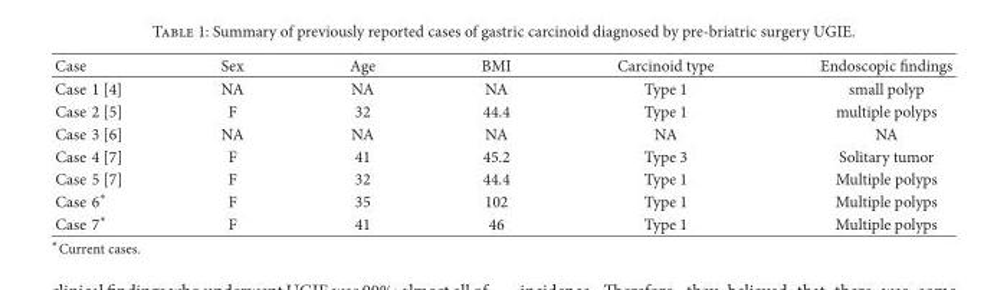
<table><thead><tr><td>Case</td><td>Sex</td><td>Age</td><td>BMI</td><td>Carcinoid type</td><td>Endoscopic �ndings</td></tr></thead><tbody><tr><td>Case 1 [4]</td><td>NA</td><td>NA</td><td>NA</td><td>Type 1</td><td>small polyp</td></tr><tr><td>Case 2 [5]</td><td>F</td><td>32</td><td>44.4</td><td>Type 1</td><td>multiple polyps</td></tr><tr><td>Case 3 [6]</td><td>NA</td><td>NA</td><td>NA</td><td>NA</td><td>NA</td></tr><tr><td>Case 4 [7]</td><td>F</td><td>41</td><td>45.2</td><td>Type 3</td><td>Solitary tumor</td></tr><tr><td>Case 5 [7]</td><td>F</td><td>32</td><td>44.4</td><td>Type 1</td><td>Multiple polyps</td></tr><tr><td>Case 6∗</td><td>F</td><td>35</td><td>102</td><td>Type 1</td><td>Multiple polyps</td></tr><tr><td>Case 7∗</td><td>F</td><td>41</td><td>46</td><td>Type 1</td><td>Multiple polyps</td></tr></tbody></table>